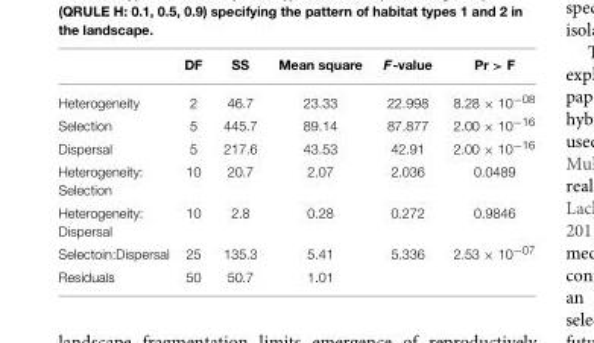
<table><thead><tr><td></td><td>DF</td><td>SS</td><td>Mean square</td><td>F-value</td><td>Pr &gt; F</td></tr></thead><tbody><tr><td>Heterogeneity</td><td>2</td><td>46.7</td><td>23.33</td><td>22.998</td><td>8.28 × 10<sup>−08</sup></td></tr><tr><td>Selection</td><td>5</td><td>445.7</td><td>89.14</td><td>87.877</td><td>2.00 × 10<sup>−16</sup></td></tr><tr><td>Dispersal</td><td>5</td><td>217.6</td><td>43.53</td><td>42.91</td><td>2.00 × 10<sup>−16</sup></td></tr><tr><td>Heterogeneity: Selection</td><td>10</td><td>20.7</td><td>2.07</td><td>2.036</td><td>0.0489</td></tr><tr><td>Heterogeneity: Dispersal</td><td>10</td><td>2.8</td><td>0.28</td><td>0.272</td><td>0.9846</td></tr><tr><td>Selectoin:Dispersal</td><td>25</td><td>135.3</td><td>5.41</td><td>5.336</td><td>2.53 × 10<sup>−07</sup></td></tr><tr><td>Residuals</td><td>50</td><td>50.7</td><td>1.01</td><td></td><td></td></tr></tbody></table>